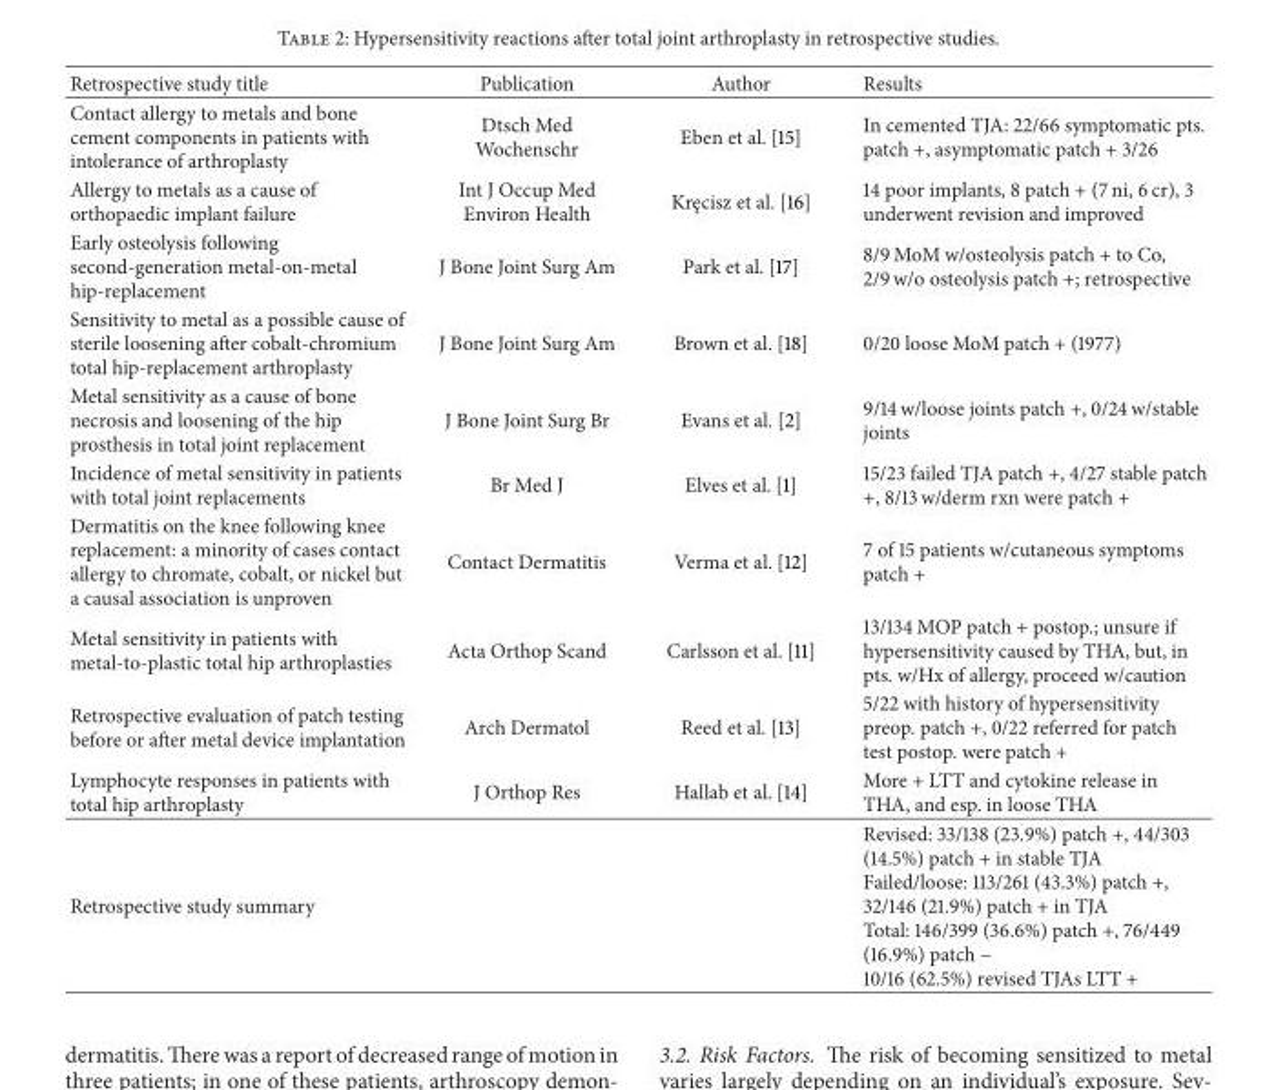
<table><thead><tr><td>Retrospective study title</td><td>Publication</td><td>Author</td><td>Results</td></tr></thead><tbody><tr><td>Contact allergy to metals and bone cement components in patients with intolerance of arthroplasty</td><td>Dtsch Med Wochenschr</td><td>Eben et al. [15]</td><td>In cemented TJA: 22/66 symptomatic pts. patch +, asymptomatic patch + 3/26</td></tr><tr><td>Allergy to metals as a cause of orthopaedic implant failure</td><td>Int J Occup Med Environ Health</td><td>Kręcisz et al. [16]</td><td>14 poor implants, 8 patch + (7 ni, 6 cr), 3 underwent revision and improved</td></tr><tr><td>Early osteolysis following second-generation metal-on-metal hip-replacement</td><td>J Bone Joint Surg Am</td><td>Park et al. [17]</td><td>8/9 MoM w/osteolysis patch + to Co, 2/9 w/o osteolysis patch +; retrospective</td></tr><tr><td>Sensitivity to metal as a possible cause of sterile loosening after cobalt-chromium total hip-replacement arthroplasty</td><td>J Bone Joint Surg Am</td><td>Brown et al. [18]</td><td>0/20 loose MoM patch + (1977)</td></tr><tr><td>Metal sensitivity as a cause of bone necrosis and loosening of the hip prosthesis in total joint replacement</td><td>J Bone Joint Surg Br</td><td>Evans et al. [2]</td><td>9/14 w/loose joints patch +, 0/24 w/stable joints</td></tr><tr><td>Incidence of metal sensitivity in patients with total joint replacements</td><td>Br Med J</td><td>Elves et al. [1]</td><td>15/23 failed TJA patch +, 4/27 stable patch +, 8/13 w/derm rxn were patch +</td></tr><tr><td>Dermatitis on the knee following knee replacement: a minority of cases contact allergy to chromate, cobalt, or nickel but a causal association is unproven</td><td>Contact Dermatitis</td><td>Verma et al. [12]</td><td>7 of 15 patients w/cutaneous symptoms patch +</td></tr><tr><td>Metal sensitivity in patients with metal-to-plastic total hip arthroplasties</td><td>Acta Orthop Scand</td><td>Carlsson et al. [11]</td><td>13/134 MOP patch + postop.; unsure if hypersensitivity caused by THA, but, in pts. w/Hx of allergy, proceed w/caution</td></tr><tr><td>Retrospective evaluation of patch testing before or after metal device implantation</td><td>Arch Dermatol</td><td>Reed et al. [13]</td><td>5/22 with history of hypersensitivity preop. patch +, 0/22 referred for patch test postop. were patch +</td></tr><tr><td>Lymphocyte responses in patients with total hip arthroplasty</td><td>J Orthop Res</td><td>Hallab et al. [14]</td><td>More + LTT and cytokine release in THA, and esp. in loose THA</td></tr><tr><td>Retrospective study summary</td><td></td><td></td><td>Revised: 33/138 (23.9%) patch +, 44/303 (14.5%) patch + in stable TJA Failed/loose: 113/261 (43.3%) patch +, 32/146 (21.9%) patch + in TJA Total: 146/399 (36.6%) patch +, 76/449 (16.9%) patch − 10/16 (62.5%) revised TJAs LTT +</td></tr></tbody></table>